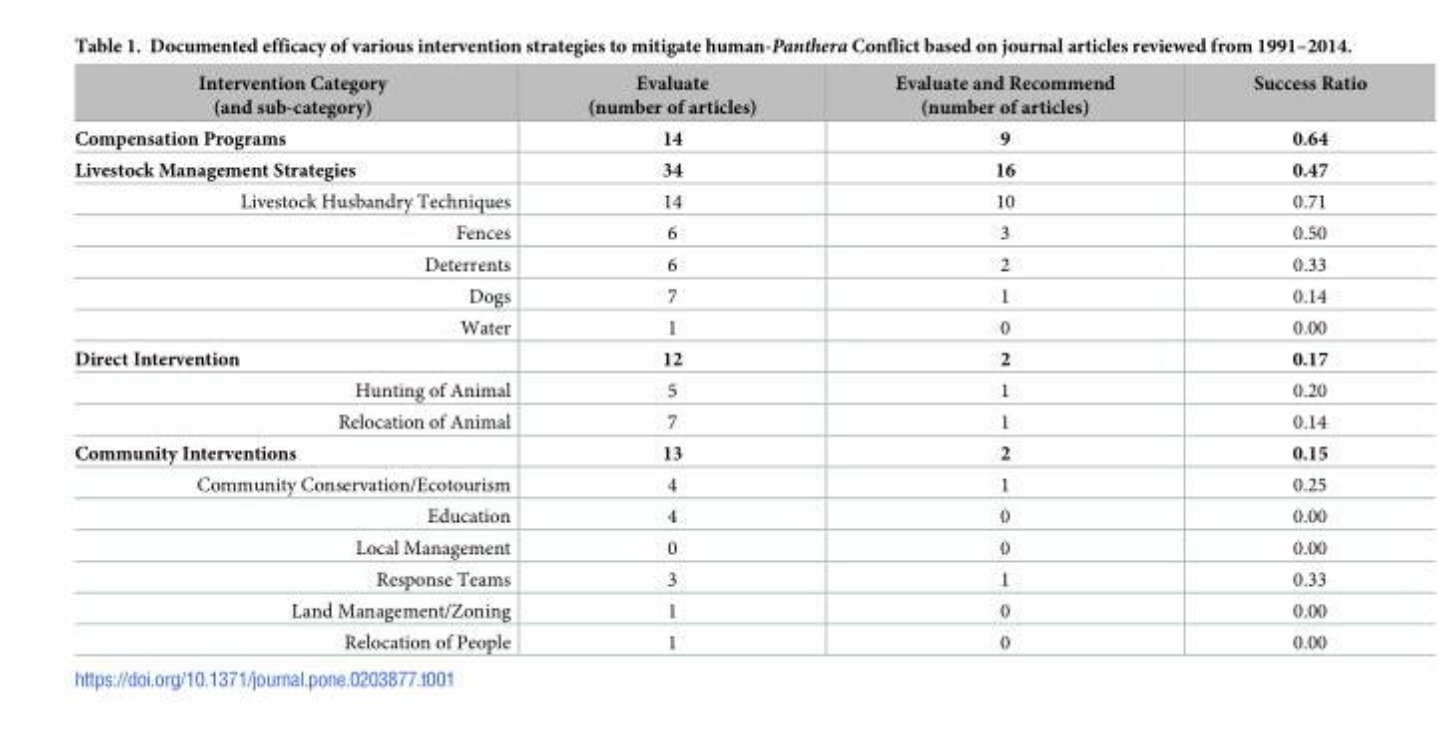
<table><thead><tr><td>Intervention Category (and sub-category)</td><td>Evaluate (number of articles)</td><td>Evaluate and Recommend (number of articles)</td><td>Success Ratio</td></tr></thead><tbody><tr><td>Compensation Programs</td><td>14</td><td>9</td><td>0.64</td></tr><tr><td>Livestock Management Strategies</td><td>34</td><td>16</td><td>0.47</td></tr><tr><td>Livestock Husbandry Techniques</td><td>14</td><td>10</td><td>0.71</td></tr><tr><td>Fences</td><td>6</td><td>3</td><td>0.50</td></tr><tr><td>Deterrents</td><td>6</td><td>2</td><td>0.33</td></tr><tr><td>Dogs</td><td>7</td><td>1</td><td>0.14</td></tr><tr><td>Water</td><td>1</td><td>0</td><td>0.00</td></tr><tr><td>Direct Intervention</td><td>12</td><td>2</td><td>0.17</td></tr><tr><td>Hunting of Animal</td><td>5</td><td>1</td><td>0.20</td></tr><tr><td>Relocation of Animal</td><td>7</td><td>1</td><td>0.14</td></tr><tr><td>Community Interventions</td><td>13</td><td>2</td><td>0.15</td></tr><tr><td>Community Conservation/Ecotourism</td><td>4</td><td>1</td><td>0.25</td></tr><tr><td>Education</td><td>4</td><td>0</td><td>0.00</td></tr><tr><td>Local Management</td><td>0</td><td>0</td><td>0.00</td></tr><tr><td>Response Teams</td><td>3</td><td>1</td><td>0.33</td></tr><tr><td>Land Management/Zoning</td><td>1</td><td>0</td><td>0.00</td></tr><tr><td>Relocation of People</td><td>1</td><td>0</td><td>0.00</td></tr></tbody></table>